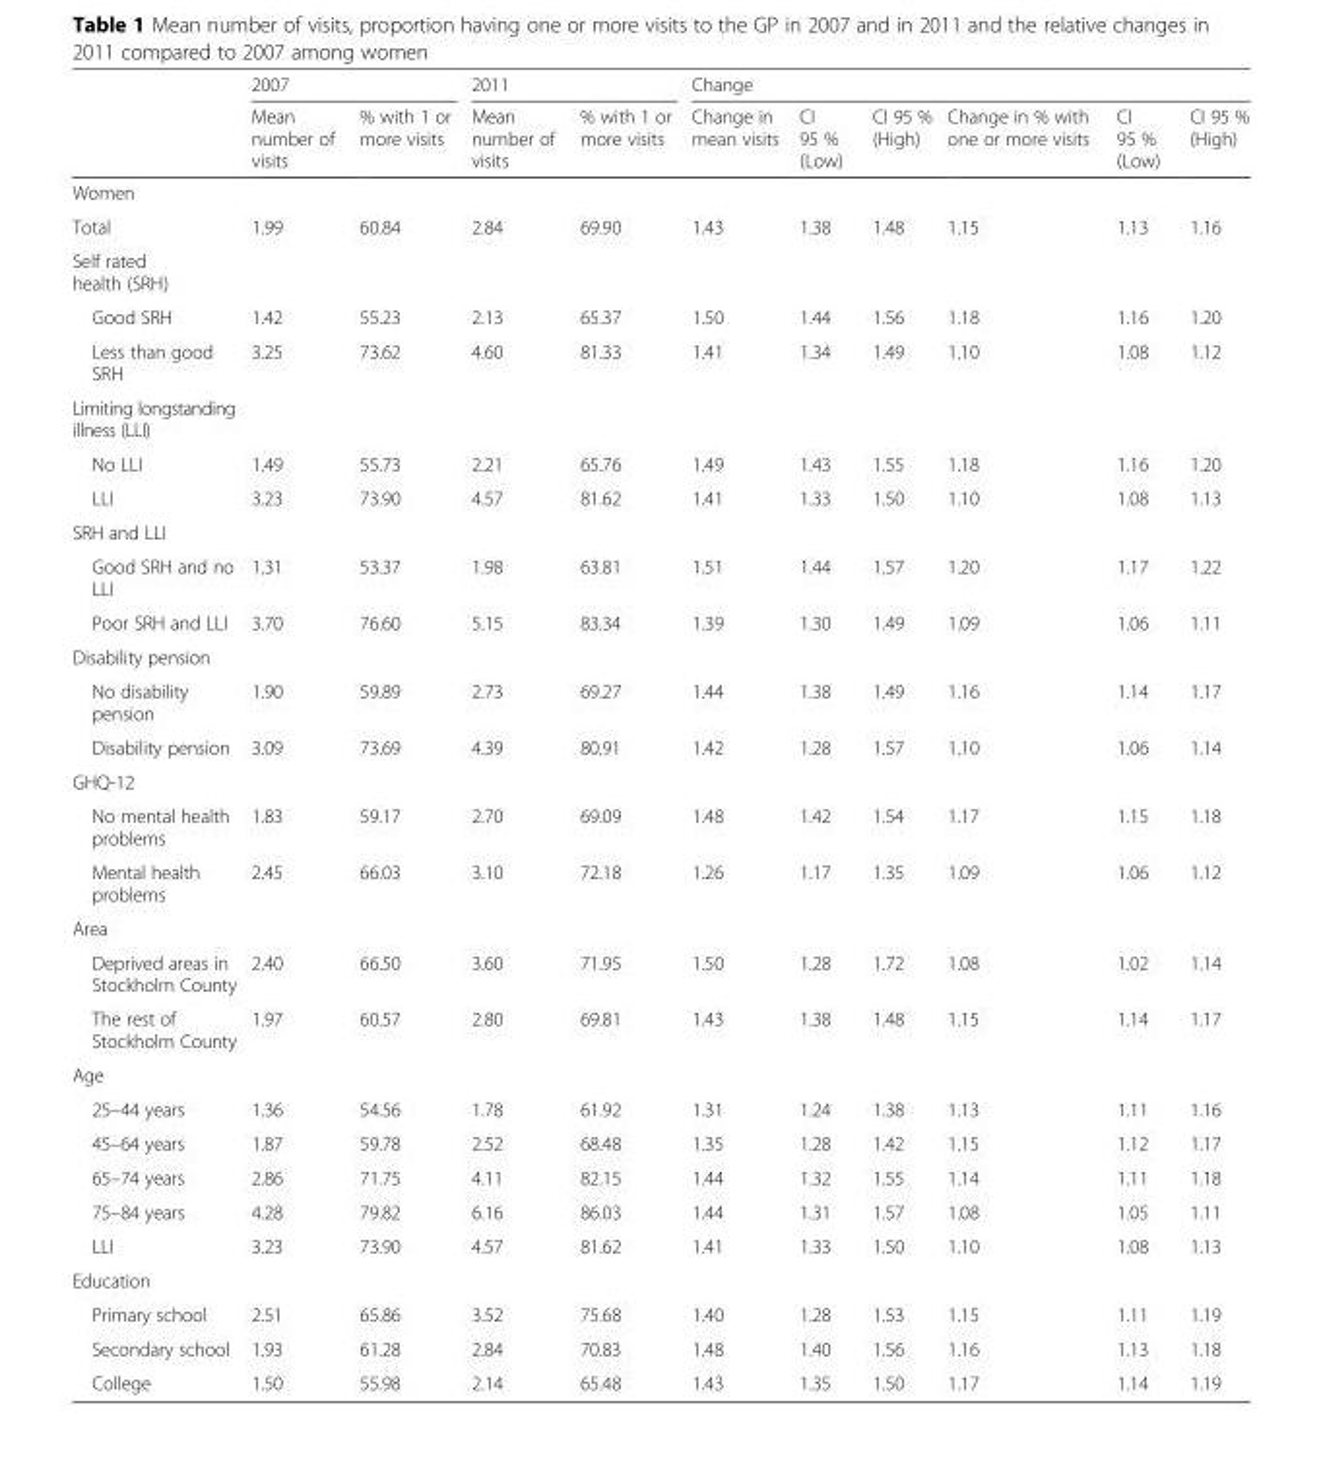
<table><thead><tr><td rowspan="2"></td><td colspan="2">2007</td><td colspan="2">2011</td><td colspan="6">Change</td></tr><tr><td>Mean number of visits</td><td>% with 1 or more visits</td><td>Mean number of visits</td><td>% with 1 or more visits</td><td>Change in mean visits</td><td>CI 95 % (Low)</td><td>CI 95 % (High)</td><td>Change in % with one or more visits</td><td>CI 95 % (Low)</td><td>CI 95 % (High)</td></tr></thead><tbody><tr><td colspan="11">Women</td></tr><tr><td>Total</td><td>1.99</td><td>60.84</td><td>2.84</td><td>69.90</td><td>1.43</td><td>1.38</td><td>1.48</td><td>1.15</td><td>1.13</td><td>1.16</td></tr><tr><td colspan="11">Self rated health (SRH)</td></tr><tr><td>Good SRH</td><td>1.42</td><td>55.23</td><td>2.13</td><td>65.37</td><td>1.50</td><td>1.44</td><td>1.56</td><td>1.18</td><td>1.16</td><td>1.20</td></tr><tr><td>Less than good SRH</td><td>3.25</td><td>73.62</td><td>4.60</td><td>81.33</td><td>1.41</td><td>1.34</td><td>1.49</td><td>1.10</td><td>1.08</td><td>1.12</td></tr><tr><td colspan="11">Limiting longstanding illness (LLI)</td></tr><tr><td>No LLI</td><td>1.49</td><td>55.73</td><td>2.21</td><td>65.76</td><td>1.49</td><td>1.43</td><td>1.55</td><td>1.18</td><td>1.16</td><td>1.20</td></tr><tr><td>LLI</td><td>3.23</td><td>73.90</td><td>4.57</td><td>81.62</td><td>1.41</td><td>1.33</td><td>1.50</td><td>1.10</td><td>1.08</td><td>1.13</td></tr><tr><td colspan="11">SRH and LLI</td></tr><tr><td>Good SRH and no LLI</td><td>1.31</td><td>53.37</td><td>1.98</td><td>63.81</td><td>1.51</td><td>1.44</td><td>1.57</td><td>1.20</td><td>1.17</td><td>1.22</td></tr><tr><td>Poor SRH and LLI</td><td>3.70</td><td>76.60</td><td>5.15</td><td>83.34</td><td>1.39</td><td>1.30</td><td>1.49</td><td>1.09</td><td>1.06</td><td>1.11</td></tr><tr><td colspan="11">Disability pension</td></tr><tr><td>No disability pension</td><td>1.90</td><td>59.89</td><td>2.73</td><td>69.27</td><td>1.44</td><td>1.38</td><td>1.49</td><td>1.16</td><td>1.14</td><td>1.17</td></tr><tr><td>Disability pension</td><td>3.09</td><td>73.69</td><td>4.39</td><td>80.91</td><td>1.42</td><td>1.28</td><td>1.57</td><td>1.10</td><td>1.06</td><td>1.14</td></tr><tr><td colspan="11">GHQ-12</td></tr><tr><td>No mental health problems</td><td>1.83</td><td>59.17</td><td>2.70</td><td>69.09</td><td>1.48</td><td>1.42</td><td>1.54</td><td>1.17</td><td>1.15</td><td>1.18</td></tr><tr><td>Mental health problems</td><td>2.45</td><td>66.03</td><td>3.10</td><td>72.18</td><td>1.26</td><td>1.17</td><td>1.35</td><td>1.09</td><td>1.06</td><td>1.12</td></tr><tr><td colspan="11">Area</td></tr><tr><td>Deprived areas in Stockholm County</td><td>2.40</td><td>66.50</td><td>3.60</td><td>71.95</td><td>1.50</td><td>1.28</td><td>1.72</td><td>1.08</td><td>1.02</td><td>1.14</td></tr><tr><td>The rest of Stockholm County</td><td>1.97</td><td>60.57</td><td>2.80</td><td>69.81</td><td>1.43</td><td>1.38</td><td>1.48</td><td>1.15</td><td>1.14</td><td>1.17</td></tr><tr><td colspan="11">Age</td></tr><tr><td>25–44 years</td><td>1.36</td><td>54.56</td><td>1.78</td><td>61.92</td><td>1.31</td><td>1.24</td><td>1.38</td><td>1.13</td><td>1.11</td><td>1.16</td></tr><tr><td>45–64 years</td><td>1.87</td><td>59.78</td><td>2.52</td><td>68.48</td><td>1.35</td><td>1.28</td><td>1.42</td><td>1.15</td><td>1.12</td><td>1.17</td></tr><tr><td>65–74 years</td><td>2.86</td><td>71.75</td><td>4.11</td><td>82.15</td><td>1.44</td><td>1.32</td><td>1.55</td><td>1.14</td><td>1.11</td><td>1.18</td></tr><tr><td>75–84 years</td><td>4.28</td><td>79.82</td><td>6.16</td><td>86.03</td><td>1.44</td><td>1.31</td><td>1.57</td><td>1.08</td><td>1.05</td><td>1.11</td></tr><tr><td>LLI</td><td>3.23</td><td>73.90</td><td>4.57</td><td>81.62</td><td>1.41</td><td>1.33</td><td>1.50</td><td>1.10</td><td>1.08</td><td>1.13</td></tr><tr><td colspan="11">Education</td></tr><tr><td>Primary school</td><td>2.51</td><td>65.86</td><td>3.52</td><td>75.68</td><td>1.40</td><td>1.28</td><td>1.53</td><td>1.15</td><td>1.11</td><td>1.19</td></tr><tr><td>Secondary school</td><td>1.93</td><td>61.28</td><td>2.84</td><td>70.83</td><td>1.48</td><td>1.40</td><td>1.56</td><td>1.16</td><td>1.13</td><td>1.18</td></tr><tr><td>College</td><td>1.50</td><td>55.98</td><td>2.14</td><td>65.48</td><td>1.43</td><td>1.35</td><td>1.50</td><td>1.17</td><td>1.14</td><td>1.19</td></tr></tbody></table>